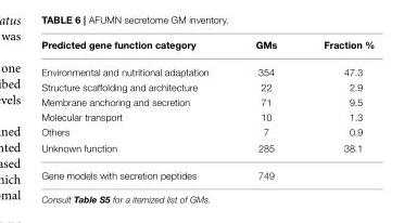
<table><thead><tr><td>Predicted gene function category</td><td>GMs</td><td>Fraction %</td></tr></thead><tbody><tr><td>Environmental and nutritional adaptation</td><td>354</td><td>47.3</td></tr><tr><td>Structure scaffolding and architecture</td><td>22</td><td>2.9</td></tr><tr><td>Membrane anchoring and secretion</td><td>71</td><td>9.5</td></tr><tr><td>Molecular transport</td><td>10</td><td>1.3</td></tr><tr><td>Others</td><td>7</td><td>0.9</td></tr><tr><td>Unknown function</td><td>285</td><td>38.1</td></tr><tr><td>Gene models with secretion peptides</td><td>749</td><td></td></tr></tbody></table>